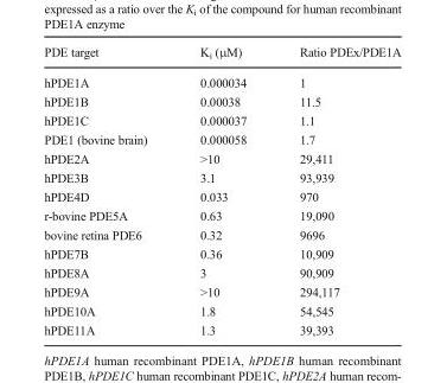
<table><thead><tr><td>PDE target</td><td>K<sub>i</sub> (μM)</td><td>Ratio PDEx/PDE1A</td></tr></thead><tbody><tr><td>hPDE1A</td><td>0.000034</td><td>1</td></tr><tr><td>hPDE1B</td><td>0.00038</td><td>11.5</td></tr><tr><td>hPDE1C</td><td>0.000037</td><td>1.1</td></tr><tr><td>PDE1 (bovine brain)</td><td>0.000058</td><td>1.7</td></tr><tr><td>hPDE2A</td><td>&gt;10</td><td>29,411</td></tr><tr><td>hPDE3B</td><td>3.1</td><td>93,939</td></tr><tr><td>hPDE4D</td><td>0.033</td><td>970</td></tr><tr><td>r-bovine PDE5A</td><td>0.63</td><td>19,090</td></tr><tr><td>bovine retina PDE6</td><td>0.32</td><td>9696</td></tr><tr><td>hPDE7B</td><td>0.36</td><td>10,909</td></tr><tr><td>hPDE8A</td><td>3</td><td>90,909</td></tr><tr><td>hPDE9A</td><td>&gt;10</td><td>294,117</td></tr><tr><td>hPDE10A</td><td>1.8</td><td>54,545</td></tr><tr><td>hPDE11A</td><td>1.3</td><td>39,393</td></tr></tbody></table>